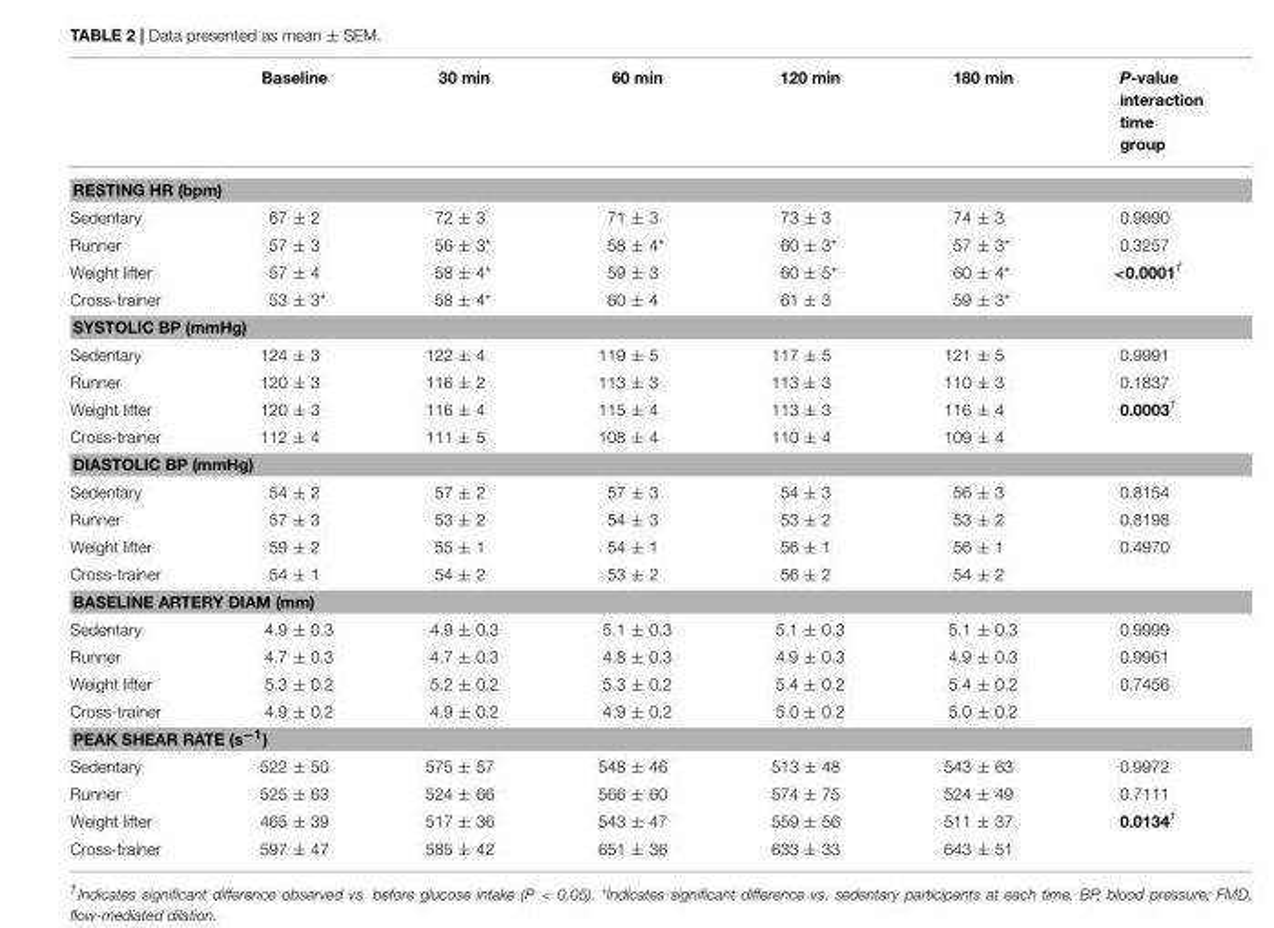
<table><thead><tr><td></td><td>Baseline</td><td>30 min</td><td>60 min</td><td>120 min</td><td>180 min</td><td>P-value interaction time group</td></tr></thead><tbody><tr><td colspan="7">RESTING HR (bpm)</td></tr><tr><td>Sedentary</td><td>67 ± 2</td><td>72 ± 3</td><td>71 ± 3</td><td>73 ± 3</td><td>74 ± 3</td><td>0.9990</td></tr><tr><td>Runner</td><td>57 ± 3</td><td>56 ± 3*</td><td>58 ± 4*</td><td>60 ± 3*</td><td>57 ± 3*</td><td>0.3257</td></tr><tr><td>Weight lifter</td><td>57 ± 4</td><td>58 ± 4*</td><td>59 ± 3</td><td>60 ± 5*</td><td>60 ± 4*</td><td>&lt;0.0001<sup>†</sup></td></tr><tr><td>Cross-trainer</td><td>53 ± 3*</td><td>58 ± 4*</td><td>60 ± 4</td><td>61 ± 3</td><td>59 ± 3*</td><td></td></tr><tr><td colspan="7">SYSTOLIC BP (mmHg)</td></tr><tr><td>Sedentary</td><td>124 ± 3</td><td>122 ± 4</td><td>119 ± 5</td><td>117 ± 5</td><td>121 ± 5</td><td>0.9991</td></tr><tr><td>Runner</td><td>120 ± 3</td><td>116 ± 2</td><td>113 ± 3</td><td>113 ± 3</td><td>110 ± 3</td><td>0.1837</td></tr><tr><td>Weight lifter</td><td>120 ± 3</td><td>116 ± 4</td><td>115 ± 4</td><td>113 ± 3</td><td>116 ± 4</td><td>0.0003<sup>†</sup></td></tr><tr><td>Cross-trainer</td><td>112 ± 4</td><td>111 ± 5</td><td>108 ± 4</td><td>110 ± 4</td><td>109 ± 4</td><td></td></tr><tr><td colspan="7">DIASTOLIC BP (mmHg)</td></tr><tr><td>Sedentary</td><td>54 ± 2</td><td>57 ± 2</td><td>57 ± 3</td><td>54 ± 3</td><td>56 ± 3</td><td>0.8154</td></tr><tr><td>Runner</td><td>57 ± 3</td><td>53 ± 2</td><td>54 ± 3</td><td>53 ± 2</td><td>53 ± 2</td><td>0.8198</td></tr><tr><td>Weight lifter</td><td>59 ± 2</td><td>55 ± 1</td><td>54 ± 1</td><td>56 ± 1</td><td>56 ± 1</td><td>0.4970</td></tr><tr><td>Cross-trainer</td><td>54 ± 1</td><td>54 ± 2</td><td>53 ± 2</td><td>56 ± 2</td><td>54 ± 2</td><td></td></tr><tr><td colspan="7">BASELINE ARTERY DIAM (mm)</td></tr><tr><td>Sedentary</td><td>4.9 ± 0.3</td><td>4.9 ± 0.3</td><td>5.1 ± 0.3</td><td>5.1 ± 0.3</td><td>5.1 ± 0.3</td><td>0.9999</td></tr><tr><td>Runner</td><td>4.7 ± 0.3</td><td>4.7 ± 0.3</td><td>4.8 ± 0.3</td><td>4.9 ± 0.3</td><td>4.9 ± 0.3</td><td>0.9961</td></tr><tr><td>Weight lifter</td><td>5.3 ± 0.2</td><td>5.2 ± 0.2</td><td>5.3 ± 0.2</td><td>5.4 ± 0.2</td><td>5.4 ± 0.2</td><td>0.7456</td></tr><tr><td>Cross-trainer</td><td>4.9 ± 0.2</td><td>4.9 ± 0.2</td><td>4.9 ± 0.2</td><td>5.0 ± 0.2</td><td>5.0 ± 0.2</td><td></td></tr><tr><td colspan="7">PEAK SHEAR RATE (s<sup>−1</sup>)</td></tr><tr><td>Sedentary</td><td>522 ± 50</td><td>575 ± 57</td><td>548 ± 46</td><td>513 ± 48</td><td>543 ± 63</td><td>0.9972</td></tr><tr><td>Runner</td><td>525 ± 63</td><td>524 ± 66</td><td>566 ± 60</td><td>574 ± 75</td><td>524 ± 49</td><td>0.7111</td></tr><tr><td>Weight lifter</td><td>465 ± 39</td><td>517 ± 36</td><td>543 ± 47</td><td>559 ± 56</td><td>511 ± 37</td><td>0.0134<sup>†</sup></td></tr><tr><td>Cross-trainer</td><td>597 ± 47</td><td>585 ± 42</td><td>651 ± 36</td><td>633 ± 33</td><td>643 ± 51</td><td></td></tr></tbody></table>